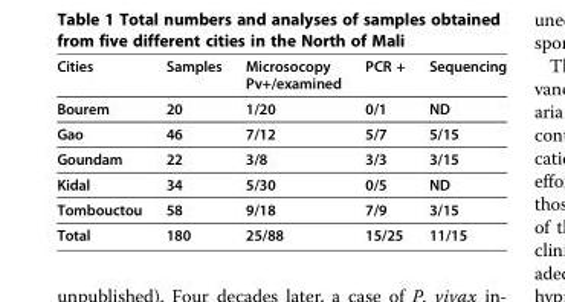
<table><thead><tr><td>Cities</td><td>Samples</td><td>Microsocopy Pv+/examined</td><td>PCR +</td><td>Sequencing</td></tr></thead><tbody><tr><td>Bourem</td><td>20</td><td>1/20</td><td>0/1</td><td>ND</td></tr><tr><td>Gao</td><td>46</td><td>7/12</td><td>5/7</td><td>5/15</td></tr><tr><td>Goundam</td><td>22</td><td>3/8</td><td>3/3</td><td>3/15</td></tr><tr><td>Kidal</td><td>34</td><td>5/30</td><td>0/5</td><td>ND</td></tr><tr><td>Tombouctou</td><td>58</td><td>9/18</td><td>7/9</td><td>3/15</td></tr><tr><td>Total</td><td>180</td><td>25/88</td><td>15/25</td><td>11/15</td></tr></tbody></table>